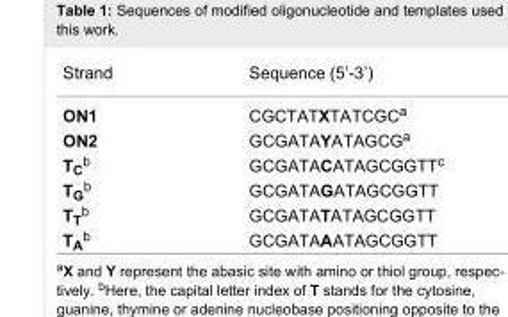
<table><tbody><tr><td>Strand</td><td>Sequence (5’-3’)</td></tr><tr><td>ON1</td><td>CGCTATXTATCGC<sup>a</sup></td></tr><tr><td>ON2</td><td>GCGATAYATAGCG<sup>a</sup></td></tr><tr><td>T<sub>C</sub><sup>b</sup></td><td>GCGATACATAGCGGTT<sup>c</sup></td></tr><tr><td>T<sub>G</sub><sup>b</sup></td><td>GCGATAGATAGCGGTT</td></tr><tr><td>T<sub>T</sub><sup>b</sup></td><td>GCGATATATAGCGGTT</td></tr><tr><td>T<sub>A</sub><sup>b</sup></td><td>GCGATAAATAGCGGTT</td></tr></tbody></table>